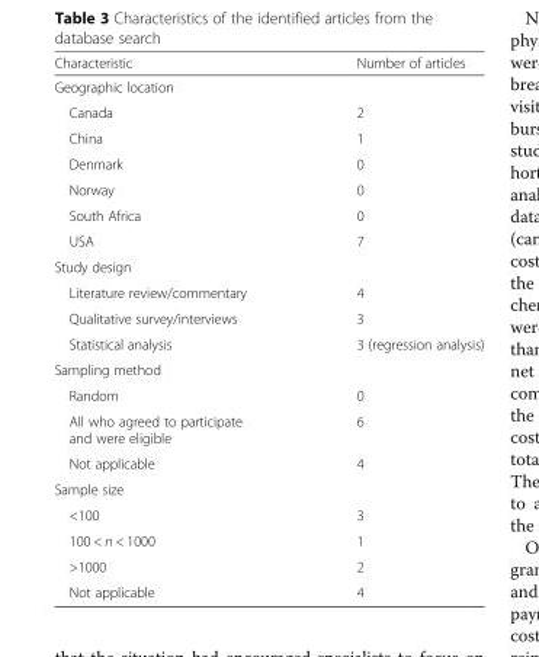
<table><thead><tr><td>Characteristic</td><td>Number of articles</td></tr></thead><tbody><tr><td colspan="2">Geographic location</td></tr><tr><td>Canada</td><td>2</td></tr><tr><td>China</td><td>1</td></tr><tr><td>Denmark</td><td>0</td></tr><tr><td>Norway</td><td>0</td></tr><tr><td>South Africa</td><td>0</td></tr><tr><td>USA</td><td>7</td></tr><tr><td colspan="2">Study design</td></tr><tr><td>Literature review/commentary</td><td>4</td></tr><tr><td>Qualitative survey/interviews</td><td>3</td></tr><tr><td>Statistical analysis</td><td>3 (regression analysis)</td></tr><tr><td colspan="2">Sampling method</td></tr><tr><td>Random</td><td>0</td></tr><tr><td>All who agreed to participate and were eligible</td><td>6</td></tr><tr><td>Not applicable</td><td>4</td></tr><tr><td colspan="2">Sample size</td></tr><tr><td>&lt;100</td><td>3</td></tr><tr><td>100 &lt; n &lt; 1000</td><td>1</td></tr><tr><td>&gt;1000</td><td>2</td></tr><tr><td>Not applicable</td><td>4</td></tr></tbody></table>